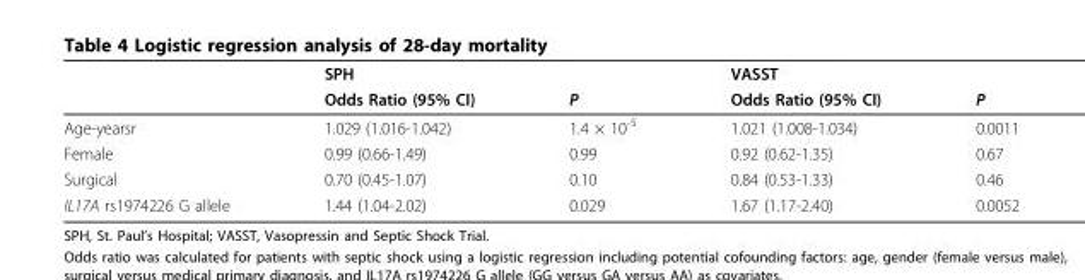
<table><thead><tr><td rowspan="2"></td><td rowspan="2">SPH Odds Ratio (95% CI)</td><td rowspan="2">P</td><td rowspan="2">VASST Odds Ratio (95% CI)</td><td rowspan="2">P</td></tr><tr></tr></thead><tbody><tr><td>Age-yearsr</td><td>1.029 (1.016-1.042)</td><td>1.4 × 10<sup>-5</sup></td><td>1.021 (1.008-1.034)</td><td>0.0011</td></tr><tr><td>Female</td><td>0.99 (0.66-1.49)</td><td>0.99</td><td>0.92 (0.62-1.35)</td><td>0.67</td></tr><tr><td>Surgical</td><td>0.70 (0.45-1.07)</td><td>0.10</td><td>0.84 (0.53-1.33)</td><td>0.46</td></tr><tr><td>IL17A rs1974226 G allele</td><td>1.44 (1.04-2.02)</td><td>0.029</td><td>1.67 (1.17-2.40)</td><td>0.0052</td></tr></tbody></table>